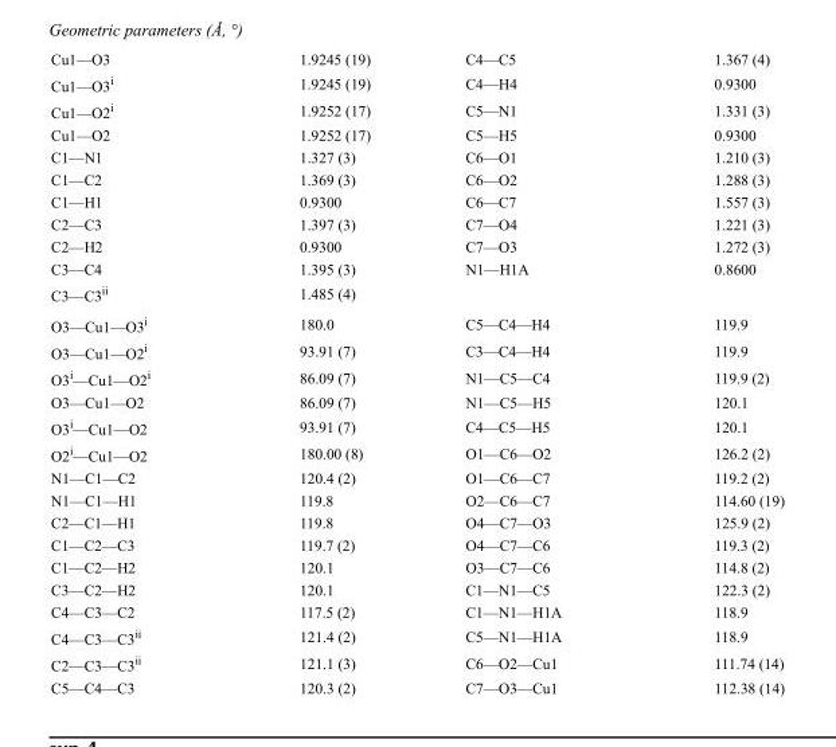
<table><tbody><tr><td>Cu1—O3</td><td>1.9245 (19)</td><td>C4—C5</td><td>1.367 (4)</td></tr><tr><td>Cu1—O3<sup>i</sup></td><td>1.9245 (19)</td><td>C4—H4</td><td>0.9300</td></tr><tr><td>Cu1—O2<sup>i</sup></td><td>1.9252 (17)</td><td>C5—N1</td><td>1.331 (3)</td></tr><tr><td>Cu1—O2</td><td>1.9252 (17)</td><td>C5—H5</td><td>0.9300</td></tr><tr><td>C1—N1</td><td>1.327 (3)</td><td>C6—O1</td><td>1.210 (3)</td></tr><tr><td>C1—C2</td><td>1.369 (3)</td><td>C6—O2</td><td>1.288 (3)</td></tr><tr><td>C1—H1</td><td>0.9300</td><td>C6—C7</td><td>1.557 (3)</td></tr><tr><td>C2—C3</td><td>1.397 (3)</td><td>C7—O4</td><td>1.221 (3)</td></tr><tr><td>C2—H2</td><td>0.9300</td><td>C7—O3</td><td>1.272 (3)</td></tr><tr><td>C3—C4</td><td>1.395 (3)</td><td>N1—H1A</td><td>0.8600</td></tr><tr><td>C3—C3<sup>ii</sup></td><td>1.485 (4)</td><td></td><td></td></tr><tr><td>O3—Cu1—O3<sup>i</sup></td><td>180.0</td><td>C5—C4—H4</td><td>119.9</td></tr><tr><td>O3—Cu1—O2<sup>i</sup></td><td>93.91 (7)</td><td>C3—C4—H4</td><td>119.9</td></tr><tr><td>O3<sup>i</sup>—Cu1—O2<sup>i</sup></td><td>86.09 (7)</td><td>N1—C5—C4</td><td>119.9 (2)</td></tr><tr><td>O3—Cu1—O2</td><td>86.09 (7)</td><td>N1—C5—H5</td><td>120.1</td></tr><tr><td>O3<sup>i</sup>—Cu1—O2</td><td>93.91 (7)</td><td>C4—C5—H5</td><td>120.1</td></tr><tr><td>O2<sup>i</sup>—Cu1—O2</td><td>180.00 (8)</td><td>O1—C6—O2</td><td>126.2 (2)</td></tr><tr><td>N1—C1—C2</td><td>120.4 (2)</td><td>O1—C6—C7</td><td>119.2 (2)</td></tr><tr><td>N1—C1—H1</td><td>119.8</td><td>O2—C6—C7</td><td>114.60 (19)</td></tr><tr><td>C2—C1—H1</td><td>119.8</td><td>O4—C7—O3</td><td>125.9 (2)</td></tr><tr><td>C1—C2—C3</td><td>119.7 (2)</td><td>O4—C7—C6</td><td>119.3 (2)</td></tr><tr><td>C1—C2—H2</td><td>120.1</td><td>O3—C7—C6</td><td>114.8 (2)</td></tr><tr><td>C3—C2—H2</td><td>120.1</td><td>C1—N1—C5</td><td>122.3 (2)</td></tr><tr><td>C4—C3—C2</td><td>117.5 (2)</td><td>C1—N1—H1A</td><td>118.9</td></tr><tr><td>C4—C3—C3<sup>ii</sup></td><td>121.4 (2)</td><td>C5—N1—H1A</td><td>118.9</td></tr><tr><td>C2—C3—C3<sup>ii</sup></td><td>121.1 (3)</td><td>C6—O2—Cu1</td><td>111.74 (14)</td></tr><tr><td>C5—C4—C3</td><td>120.3 (2)</td><td>C7—O3—Cu1</td><td>112.38 (14)</td></tr></tbody></table>